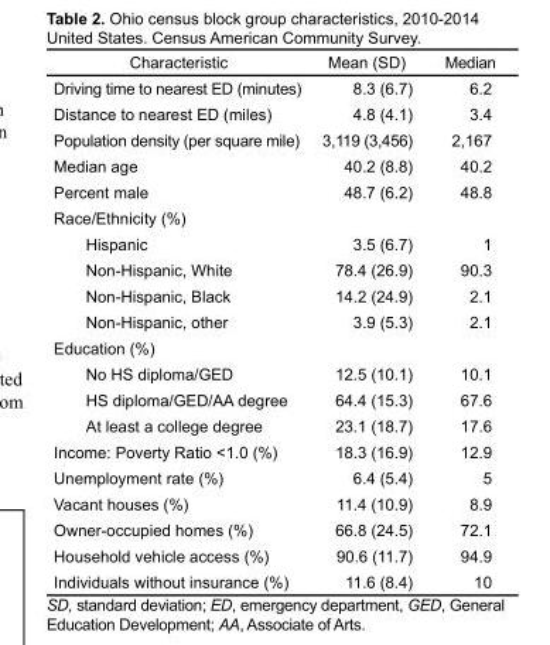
<table><thead><tr><td>Characteristic</td><td>Mean (SD)</td><td>Median</td></tr></thead><tbody><tr><td>Driving time to nearest ED (minutes)</td><td>8.3 (6.7)</td><td>6.2</td></tr><tr><td>Distance to nearest ED (miles)</td><td>4.8 (4.1)</td><td>3.4</td></tr><tr><td>Population density (per square mile)</td><td>3,119 (3,456)</td><td>2,167</td></tr><tr><td>Median age</td><td>40.2 (8.8)</td><td>40.2</td></tr><tr><td>Percent male</td><td>48.7 (6.2)</td><td>48.8</td></tr><tr><td colspan="3">Race/Ethnicity (%)</td></tr><tr><td>Hispanic</td><td>3.5 (6.7)</td><td>1</td></tr><tr><td>Non-Hispanic, White</td><td>78.4 (26.9)</td><td>90.3</td></tr><tr><td>Non-Hispanic, Black</td><td>14.2 (24.9)</td><td>2.1</td></tr><tr><td>Non-Hispanic, other</td><td>3.9 (5.3)</td><td>2.1</td></tr><tr><td colspan="3">Education (%)</td></tr><tr><td>No HS diploma/GED</td><td>12.5 (10.1)</td><td>10.1</td></tr><tr><td>HS diploma/GED/AA degree</td><td>64.4 (15.3)</td><td>67.6</td></tr><tr><td>At least a college degree</td><td>23.1 (18.7)</td><td>17.6</td></tr><tr><td>Income: Poverty Ratio &lt;1.0 (%)</td><td>18.3 (16.9)</td><td>12.9</td></tr><tr><td>Unemployment rate (%)</td><td>6.4 (5.4)</td><td>5</td></tr><tr><td>Vacant houses (%)</td><td>11.4 (10.9)</td><td>8.9</td></tr><tr><td>Owner-occupied homes (%)</td><td>66.8 (24.5)</td><td>72.1</td></tr><tr><td>Household vehicle access (%)</td><td>90.6 (11.7)</td><td>94.9</td></tr><tr><td>Individuals without insurance (%)</td><td>11.6 (8.4)</td><td>10</td></tr></tbody></table>